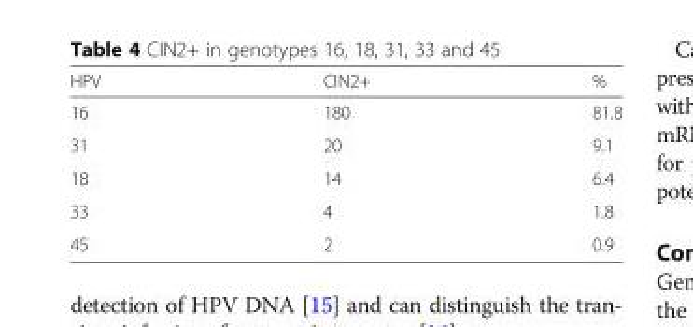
<table><thead><tr><td>HPV</td><td>CIN2+</td><td>%</td></tr></thead><tbody><tr><td>16</td><td>180</td><td>81.8</td></tr><tr><td>31</td><td>20</td><td>9.1</td></tr><tr><td>18</td><td>14</td><td>6.4</td></tr><tr><td>33</td><td>4</td><td>1.8</td></tr><tr><td>45</td><td>2</td><td>0.9</td></tr></tbody></table>